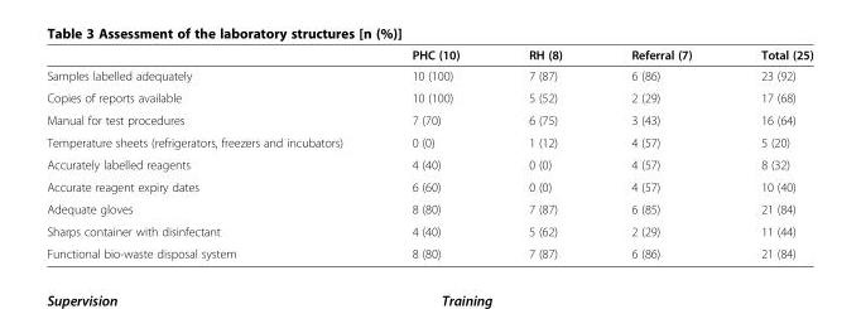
<table><thead><tr><td></td><td>PHC (10)</td><td>RH (8)</td><td>Referral (7)</td><td>Total (25)</td></tr></thead><tbody><tr><td>Samples labelled adequately</td><td>10 (100)</td><td>7 (87)</td><td>6 (86)</td><td>23 (92)</td></tr><tr><td>Copies of reports available</td><td>10 (100)</td><td>5 (52)</td><td>2 (29)</td><td>17 (68)</td></tr><tr><td>Manual for test procedures</td><td>7 (70)</td><td>6 (75)</td><td>3 (43)</td><td>16 (64)</td></tr><tr><td>Temperature sheets (refrigerators, freezers and incubators)</td><td>0 (0)</td><td>1 (12)</td><td>4 (57)</td><td>5 (20)</td></tr><tr><td>Accurately labelled reagents</td><td>4 (40)</td><td>0 (0)</td><td>4 (57)</td><td>8 (32)</td></tr><tr><td>Accurate reagent expiry dates</td><td>6 (60)</td><td>0 (0)</td><td>4 (57)</td><td>10 (40)</td></tr><tr><td>Adequate gloves</td><td>8 (80)</td><td>7 (87)</td><td>6 (85)</td><td>21 (84)</td></tr><tr><td>Sharps container with disinfectant</td><td>4 (40)</td><td>5 (62)</td><td>2 (29)</td><td>11 (44)</td></tr><tr><td>Functional bio-waste disposal system</td><td>8 (80)</td><td>7 (87)</td><td>6 (86)</td><td>21 (84)</td></tr></tbody></table>